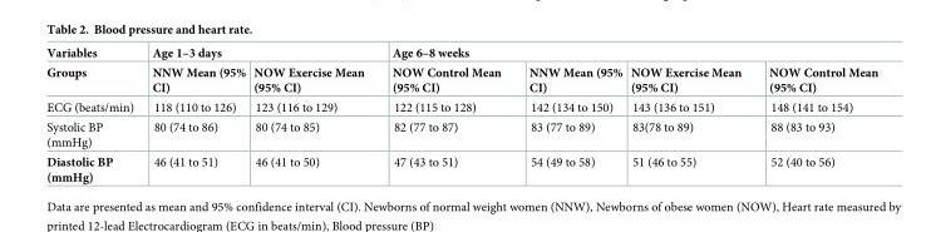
<table><thead><tr><td rowspan="2">Variables Groups</td><td colspan="2">Age 1–3 days</td><td colspan="4">Age 6–8 weeks</td></tr><tr><td>NNW Mean (95% CI)</td><td>NOW Exercise Mean (95% CI)</td><td>NOW Control Mean (95% CI)</td><td>NNW Mean (95% CI)</td><td>NOW Exercise Mean (95% CI)</td><td>NOW Control Mean (95% CI)</td></tr></thead><tbody><tr><td>ECG (beats/min)</td><td>118 (110 to 126)</td><td>123 (116 to 129)</td><td>122 (115 to 128)</td><td>142 (134 to 150)</td><td>143 (136 to 151)</td><td>148 (141 to 154)</td></tr><tr><td>Systolic BP (mmHg)</td><td>80 (74 to 86)</td><td>80 (74 to 85)</td><td>82 (77 to 87)</td><td>83 (77 to 89)</td><td>83(78 to 89)</td><td>88 (83 to 93)</td></tr><tr><td>Diastolic BP (mmHg)</td><td>46 (41 to 51)</td><td>46 (41 to 50)</td><td>47 (43 to 51)</td><td>54 (49 to 58)</td><td>51 (46 to 55)</td><td>52 (40 to 56)</td></tr></tbody></table>